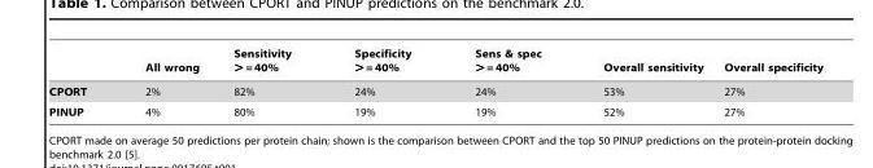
<table><thead><tr><td></td><td>All wrong</td><td>Sensitivity &gt; = 40%</td><td>Specificity &gt; = 40%</td><td>Sens &amp; spec &gt; = 40%</td><td>Overall sensitivity</td><td>Overall specificity</td></tr></thead><tbody><tr><td>CPORT</td><td>2%</td><td>82%</td><td>24%</td><td>24%</td><td>53%</td><td>27%</td></tr><tr><td>PINUP</td><td>4%</td><td>80%</td><td>19%</td><td>19%</td><td>52%</td><td>27%</td></tr></tbody></table>